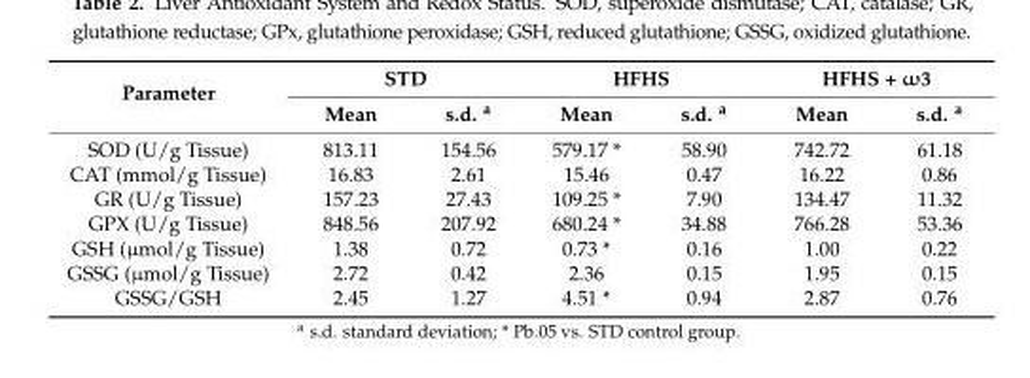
<table><thead><tr><td rowspan="2">Parameter</td><td colspan="2">STD</td><td colspan="2">HFHS</td><td colspan="2">HFHS + ω3</td></tr><tr><td>Mean</td><td>s.d. <sup>a</sup></td><td>Mean</td><td>s.d. <sup>a</sup></td><td>Mean</td><td>s.d. <sup>a</sup></td></tr></thead><tbody><tr><td>SOD (U/g Tissue)</td><td>813.11</td><td>154.56</td><td>579.17 *</td><td>58.90</td><td>742.72</td><td>61.18</td></tr><tr><td>CAT (mmol/g Tissue)</td><td>16.83</td><td>2.61</td><td>15.46</td><td>0.47</td><td>16.22</td><td>0.86</td></tr><tr><td>GR (U/g Tissue)</td><td>157.23</td><td>27.43</td><td>109.25 *</td><td>7.90</td><td>134.47</td><td>11.32</td></tr><tr><td>GPX (U/g Tissue)</td><td>848.56</td><td>207.92</td><td>680.24 *</td><td>34.88</td><td>766.28</td><td>53.36</td></tr><tr><td>GSH (µmol/g Tissue)</td><td>1.38</td><td>0.72</td><td>0.73 *</td><td>0.16</td><td>1.00</td><td>0.22</td></tr><tr><td>GSSG (µmol/g Tissue)</td><td>2.72</td><td>0.42</td><td>2.36</td><td>0.15</td><td>1.95</td><td>0.15</td></tr><tr><td>GSSG/GSH</td><td>2.45</td><td>1.27</td><td>4.51 *</td><td>0.94</td><td>2.87</td><td>0.76</td></tr></tbody></table>